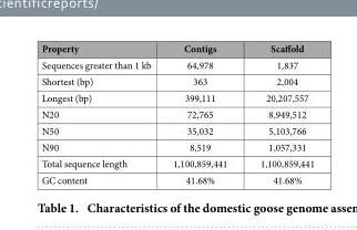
<table><thead><tr><td>Property</td><td>Contigs</td><td>Scaffold</td></tr></thead><tbody><tr><td>Sequences greater than 1 kb</td><td>64,978</td><td>1,837</td></tr><tr><td>Shortest (bp)</td><td>363</td><td>2,004</td></tr><tr><td>Longest (bp)</td><td>399,111</td><td>20,207,557</td></tr><tr><td>N20</td><td>72,765</td><td>8,949,512</td></tr><tr><td>N50</td><td>35,032</td><td>5,103,766</td></tr><tr><td>N90</td><td>8,519</td><td>1,057,331</td></tr><tr><td>Total sequence length</td><td>1,100,859,441</td><td>1,100,859,441</td></tr><tr><td>GC content</td><td>41.68%</td><td>41.68%</td></tr></tbody></table>